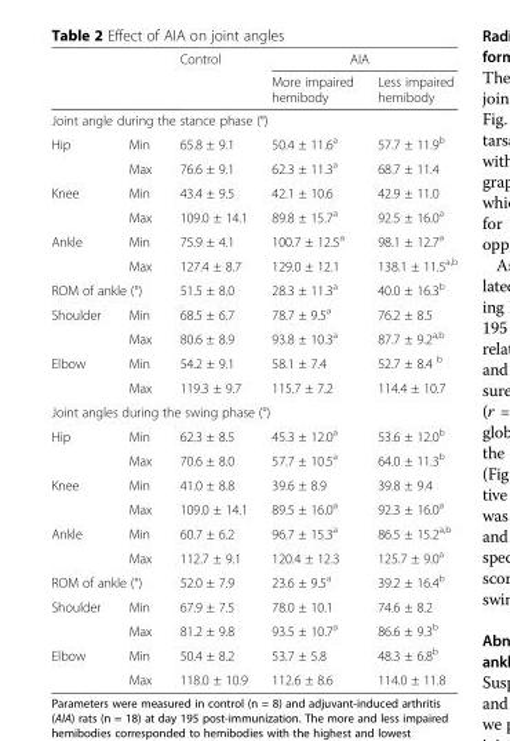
<table><thead><tr><td rowspan="2"></td><td rowspan="2"></td><td rowspan="2">Control</td><td colspan="2">AIA</td></tr><tr><td>More impaired hemibody</td><td>Less impaired hemibody</td></tr></thead><tbody><tr><td colspan="5">Joint angle during the stance phase (°)</td></tr><tr><td rowspan="2">Hip</td><td>Min</td><td>65.8 ± 9.1</td><td>50.4 ± 11.6<sup>a</sup></td><td>57.7 ± 11.9<sup>b</sup></td></tr><tr><td>Max</td><td>76.6 ± 9.1</td><td>62.3 ± 11.3<sup>a</sup></td><td>68.7 ± 11.4</td></tr><tr><td rowspan="2">Knee</td><td>Min</td><td>43.4 ± 9.5</td><td>42.1 ± 10.6</td><td>42.9 ± 11.0</td></tr><tr><td>Max</td><td>109.0 ± 14.1</td><td>89.8 ± 15.7<sup>a</sup></td><td>92.5 ± 16.0<sup>a</sup></td></tr><tr><td rowspan="2">Ankle</td><td>Min</td><td>75.9 ± 4.1</td><td>100.7 ± 12.5<sup>a</sup></td><td>98.1 ± 12.7<sup>a</sup></td></tr><tr><td>Max</td><td>127.4 ± 8.7</td><td>129.0 ± 12.1</td><td>138.1 ± 11.5<sup>a,b</sup></td></tr><tr><td colspan="2">ROM of ankle (°)</td><td>51.5 ± 8.0</td><td>28.3 ± 11.3<sup>a</sup></td><td>40.0 ± 16.3<sup>b</sup></td></tr><tr><td rowspan="2">Shoulder</td><td>Min</td><td>68.5 ± 6.7</td><td>78.7 ± 9.5<sup>a</sup></td><td>76.2 ± 8.5</td></tr><tr><td>Max</td><td>80.6 ± 8.9</td><td>93.8 ± 10.3<sup>a</sup></td><td>87.7 ± 9.2<sup>a,b</sup></td></tr><tr><td rowspan="2">Elbow</td><td>Min</td><td>54.2 ± 9.1</td><td>58.1 ± 7.4</td><td>52.7 ± 8.4 <sup>b</sup></td></tr><tr><td>Max</td><td>119.3 ± 9.7</td><td>115.7 ± 7.2</td><td>114.4 ± 10.7</td></tr><tr><td colspan="5">Joint angles during the swing phase (°)</td></tr><tr><td rowspan="2">Hip</td><td>Min</td><td>62.3 ± 8.5</td><td>45.3 ± 12.0<sup>a</sup></td><td>53.6 ± 12.0<sup>b</sup></td></tr><tr><td>Max</td><td>70.6 ± 8.0</td><td>57.7 ± 10.5<sup>a</sup></td><td>64.0 ± 11.3<sup>b</sup></td></tr><tr><td rowspan="2">Knee</td><td>Min</td><td>41.0 ± 8.8</td><td>39.6 ± 8.9</td><td>39.8 ± 9.4</td></tr><tr><td>Max</td><td>109.0 ± 14.1</td><td>89.5 ± 16.0<sup>a</sup></td><td>92.3 ± 16.0<sup>a</sup></td></tr><tr><td rowspan="2">Ankle</td><td>Min</td><td>60.7 ± 6.2</td><td>96.7 ± 15.3<sup>a</sup></td><td>86.5 ± 15.2<sup>a,b</sup></td></tr><tr><td>Max</td><td>112.7 ± 9.1</td><td>120.4 ± 12.3</td><td>125.7 ± 9.0<sup>a</sup></td></tr><tr><td colspan="2">ROM of ankle (°)</td><td>52.0 ± 7.9</td><td>23.6 ± 9.5<sup>a</sup></td><td>39.2 ± 16.4<sup>b</sup></td></tr><tr><td rowspan="2">Shoulder</td><td>Min</td><td>67.9 ± 7.5</td><td>78.0 ± 10.1</td><td>74.6 ± 8.2</td></tr><tr><td>Max</td><td>81.2 ± 9.8</td><td>93.5 ± 10.7<sup>a</sup></td><td>86.6 ± 9.3<sup>b</sup></td></tr><tr><td rowspan="2">Elbow</td><td>Min</td><td>50.4 ± 8.2</td><td>53.7 ± 5.8</td><td>48.3 ± 6.8<sup>b</sup></td></tr><tr><td>Max</td><td>118.0 ± 10.9</td><td>112.6 ± 8.6</td><td>114.0 ± 11.8</td></tr></tbody></table>